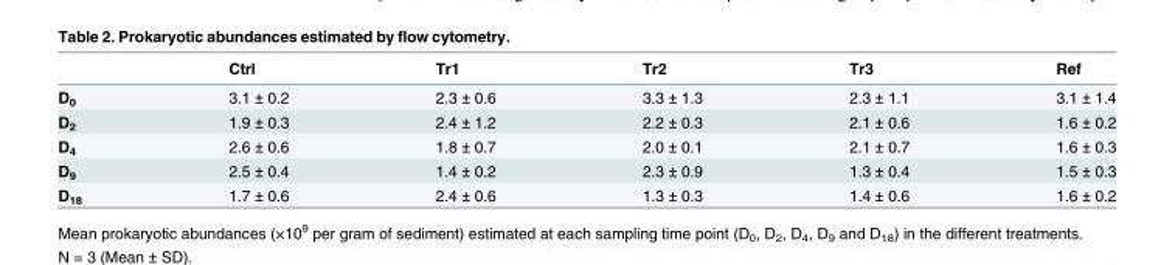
<table><thead><tr><td></td><td>Ctrl</td><td>Tr1</td><td>Tr2</td><td>Tr3</td><td>Ref</td></tr></thead><tbody><tr><td>D<sub>0</sub></td><td>3.1 ± 0.2</td><td>2.3 ± 0.6</td><td>3.3 ± 1.3</td><td>2.3 ± 1.1</td><td>3.1 ± 1.4</td></tr><tr><td>D<sub>2</sub></td><td>1.9 ± 0.3</td><td>2.4 ± 1.2</td><td>2.2 ± 0.3</td><td>2.1 ± 0.6</td><td>1.6 ± 0.2</td></tr><tr><td>D<sub>4</sub></td><td>2.6 ± 0.6</td><td>1.8 ± 0.7</td><td>2.0 ± 0.1</td><td>2.1 ± 0.7</td><td>1.6 ± 0.3</td></tr><tr><td>D<sub>9</sub></td><td>2.5 ± 0.4</td><td>1.4 ± 0.2</td><td>2.3 ± 0.9</td><td>1.3 ± 0.4</td><td>1.5 ± 0.3</td></tr><tr><td>D<sub>18</sub></td><td>1.7 ± 0.6</td><td>2.4 ± 0.6</td><td>1.3 ± 0.3</td><td>1.4 ± 0.6</td><td>1.6 ± 0.2</td></tr></tbody></table>